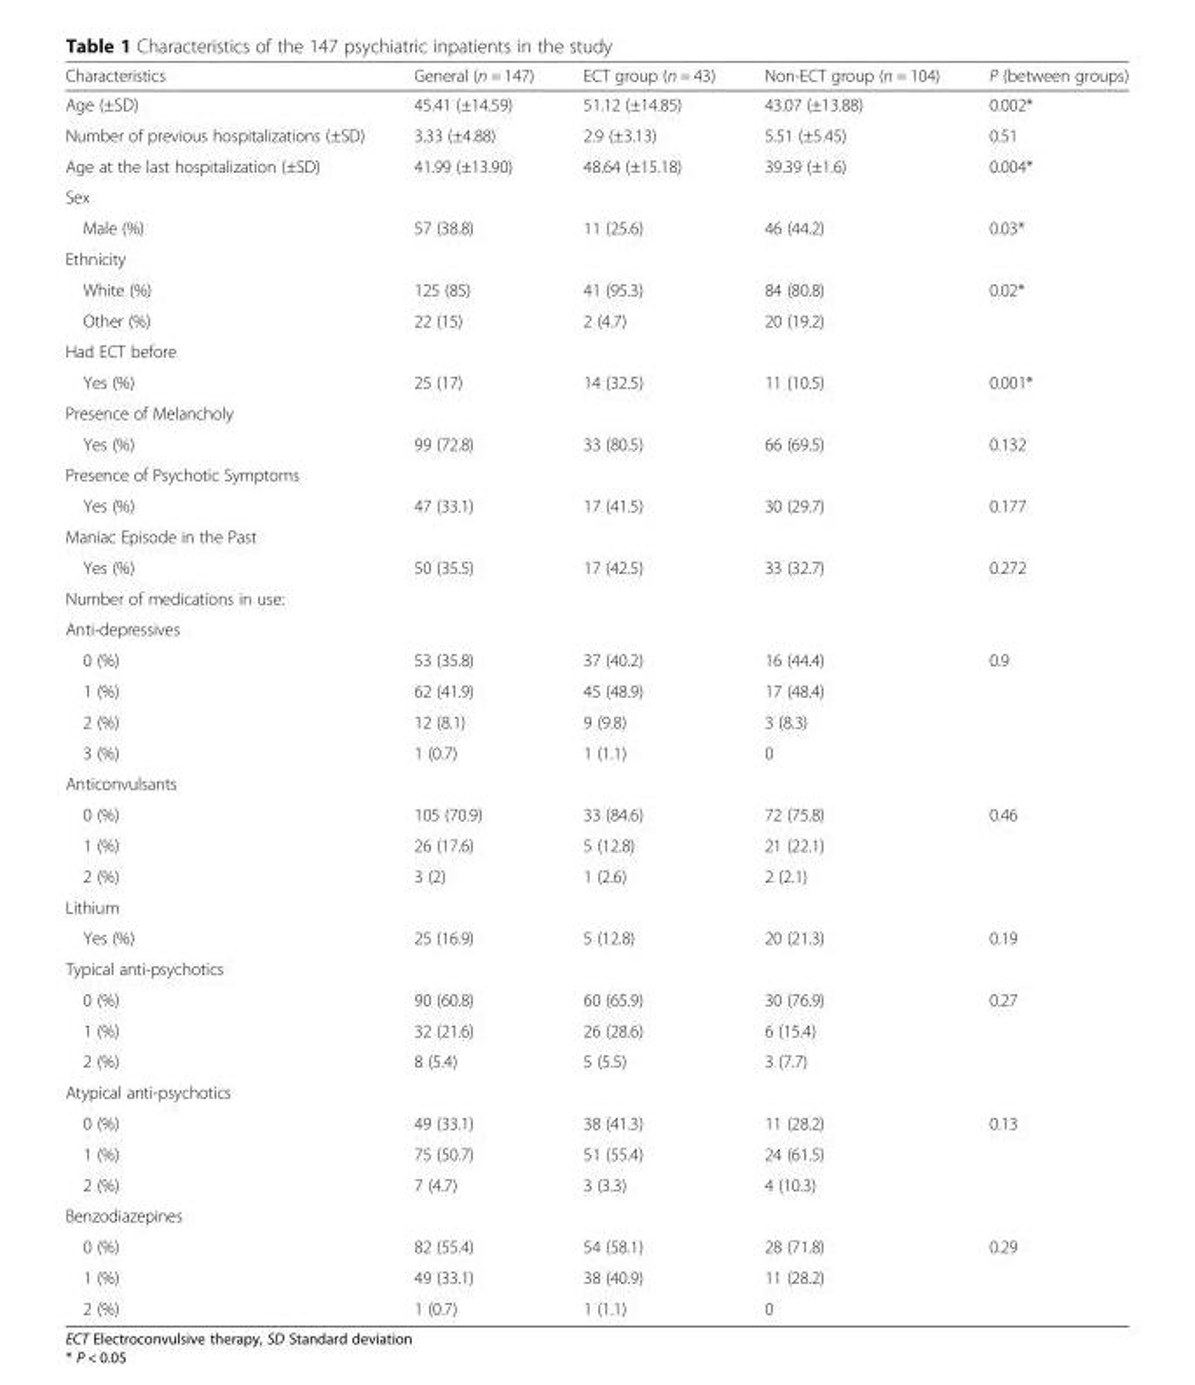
<table><thead><tr><td>Characteristics</td><td>General (n = 147)</td><td>ECT group (n = 43)</td><td>Non-ECT group (n = 104)</td><td>P (between groups)</td></tr></thead><tbody><tr><td>Age (±SD)</td><td>45.41 (±14.59)</td><td>51.12 (±14.85)</td><td>43.07 (±13.88)</td><td>0.002*</td></tr><tr><td>Number of previous hospitalizations (±SD)</td><td>3.33 (±4.88)</td><td>2.9 (±3.13)</td><td>5.51 (±5.45)</td><td>0.51</td></tr><tr><td>Age at the last hospitalization (±SD)</td><td>41.99 (±13.90)</td><td>48.64 (±15.18)</td><td>39.39 (±1.6)</td><td>0.004*</td></tr><tr><td colspan="5">Sex</td></tr><tr><td>Male (%)</td><td>57 (38.8)</td><td>11 (25.6)</td><td>46 (44.2)</td><td>0.03*</td></tr><tr><td colspan="5">Ethnicity</td></tr><tr><td>White (%)</td><td>125 (85)</td><td>41 (95.3)</td><td>84 (80.8)</td><td>0.02*</td></tr><tr><td>Other (%)</td><td>22 (15)</td><td>2 (4.7)</td><td>20 (19.2)</td><td></td></tr><tr><td colspan="5">Had ECT before</td></tr><tr><td>Yes (%)</td><td>25 (17)</td><td>14 (32.5)</td><td>11 (10.5)</td><td>0.001*</td></tr><tr><td colspan="5">Presence of Melancholy</td></tr><tr><td>Yes (%)</td><td>99 (72.8)</td><td>33 (80.5)</td><td>66 (69.5)</td><td>0.132</td></tr><tr><td colspan="5">Presence of Psychotic Symptoms</td></tr><tr><td>Yes (%)</td><td>47 (33.1)</td><td>17 (41.5)</td><td>30 (29.7)</td><td>0.177</td></tr><tr><td colspan="5">Maniac Episode in the Past</td></tr><tr><td>Yes (%)</td><td>50 (35.5)</td><td>17 (42.5)</td><td>33 (32.7)</td><td>0.272</td></tr><tr><td colspan="5">Number of medications in use:</td></tr><tr><td colspan="5">Anti-depressives</td></tr><tr><td>0 (%)</td><td>53 (35.8)</td><td>37 (40.2)</td><td>16 (44.4)</td><td>0.9</td></tr><tr><td>1 (%)</td><td>62 (41.9)</td><td>45 (48.9)</td><td>17 (48.4)</td><td></td></tr><tr><td>2 (%)</td><td>12 (8.1)</td><td>9 (9.8)</td><td>3 (8.3)</td><td></td></tr><tr><td>3 (%)</td><td>1 (0.7)</td><td>1 (1.1)</td><td>0</td><td></td></tr><tr><td colspan="5">Anticonvulsants</td></tr><tr><td>0 (%)</td><td>105 (70.9)</td><td>33 (84.6)</td><td>72 (75.8)</td><td>0.46</td></tr><tr><td>1 (%)</td><td>26 (17.6)</td><td>5 (12.8)</td><td>21 (22.1)</td><td></td></tr><tr><td>2 (%)</td><td>3 (2)</td><td>1 (2.6)</td><td>2 (2.1)</td><td></td></tr><tr><td colspan="5">Lithium</td></tr><tr><td>Yes (%)</td><td>25 (16.9)</td><td>5 (12.8)</td><td>20 (21.3)</td><td>0.19</td></tr><tr><td colspan="5">Typical anti-psychotics</td></tr><tr><td>0 (%)</td><td>90 (60.8)</td><td>60 (65.9)</td><td>30 (76.9)</td><td>0.27</td></tr><tr><td>1 (%)</td><td>32 (21.6)</td><td>26 (28.6)</td><td>6 (15.4)</td><td></td></tr><tr><td>2 (%)</td><td>8 (5.4)</td><td>5 (5.5)</td><td>3 (7.7)</td><td></td></tr><tr><td colspan="5">Atypical anti-psychotics</td></tr><tr><td>0 (%)</td><td>49 (33.1)</td><td>38 (41.3)</td><td>11 (28.2)</td><td>0.13</td></tr><tr><td>1 (%)</td><td>75 (50.7)</td><td>51 (55.4)</td><td>24 (61.5)</td><td></td></tr><tr><td>2 (%)</td><td>7 (4.7)</td><td>3 (3.3)</td><td>4 (10.3)</td><td></td></tr><tr><td colspan="5">Benzodiazepines</td></tr><tr><td>0 (%)</td><td>82 (55.4)</td><td>54 (58.1)</td><td>28 (71.8)</td><td>0.29</td></tr><tr><td>1 (%)</td><td>49 (33.1)</td><td>38 (40.9)</td><td>11 (28.2)</td><td></td></tr><tr><td>2 (%)</td><td>1 (0.7)</td><td>1 (1.1)</td><td>0</td><td></td></tr></tbody></table>